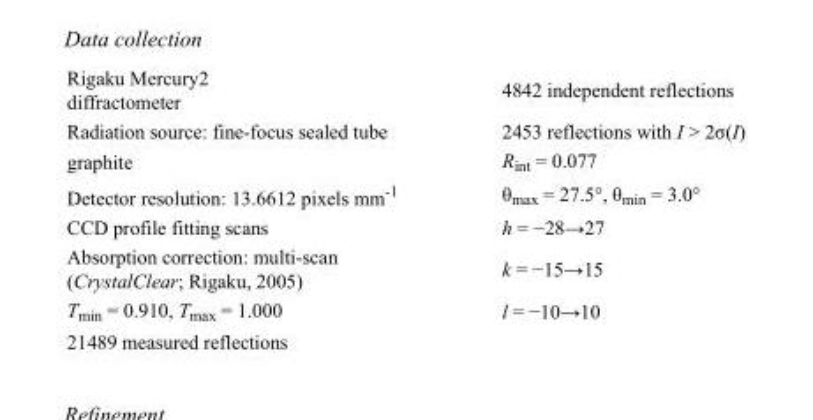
<table><tbody><tr><td>Rigaku Mercury2 diffractometer</td><td>4842 independent reflections</td></tr><tr><td>Radiation source: fine-focus sealed tube</td><td>2453 reflections with I &gt; 2σ(I)</td></tr><tr><td>graphite</td><td>R<sub>int</sub> = 0.077</td></tr><tr><td>Detector resolution: 13.6612 pixels mm<sup>-1</sup></td><td>θ<sub>max</sub> = 27.5°, θ<sub>min</sub> = 3.0°</td></tr><tr><td>CCD profile fitting scans</td><td>h = −28→27</td></tr><tr><td>Absorption correction: multi-scan (CrystalClear; Rigaku, 2005)</td><td>k = −15→15</td></tr><tr><td>T<sub>min</sub> = 0.910, T<sub>max</sub> = 1.000</td><td>l = −10→10</td></tr><tr><td>21489 measured reflections</td><td></td></tr></tbody></table>